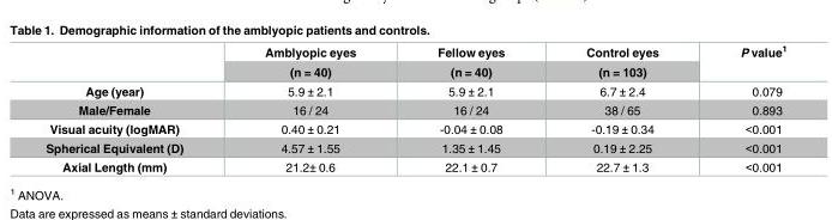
<table><thead><tr><td rowspan="2"></td><td rowspan="2">Amblyopic eyes (n = 40)</td><td rowspan="2">Fellow eyes (n = 40)</td><td rowspan="2">Control eyes (n = 103)</td><td rowspan="2">P value<sup>1</sup></td></tr><tr></tr></thead><tbody><tr><td>Age (year)</td><td>5.9 ± 2.1</td><td>5.9 ± 2.1</td><td>6.7 ± 2.4</td><td>0.079</td></tr><tr><td>Male/Female</td><td>16 / 24</td><td>16 / 24</td><td>38 / 65</td><td>0.893</td></tr><tr><td>Visual acuity (logMAR)</td><td>0.40 ± 0.21</td><td>-0.04 ± 0.08</td><td>-0.19 ± 0.34</td><td>&lt;0.001</td></tr><tr><td>Spherical Equivalent (D)</td><td>4.57 ± 1.55</td><td>1.35 ± 1.45</td><td>0.19 ± 2.25</td><td>&lt;0.001</td></tr><tr><td>Axial Length (mm)</td><td>21.2± 0.6</td><td>22.1 ± 0.7</td><td>22.7 ± 1.3</td><td>&lt;0.001</td></tr></tbody></table>